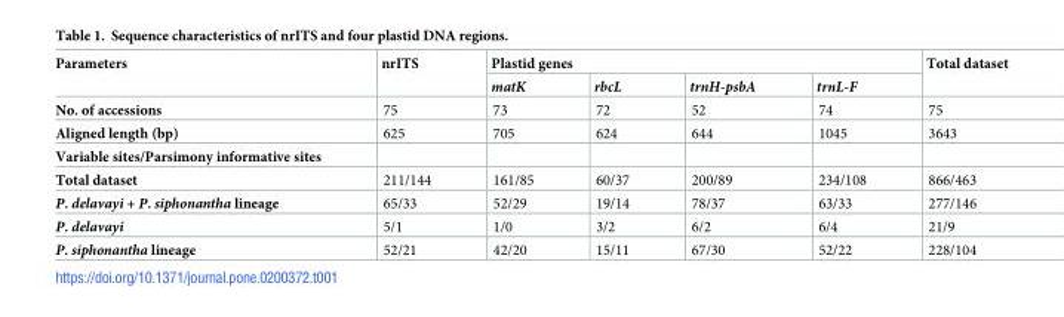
<table><thead><tr><td rowspan="2">Parameters</td><td rowspan="2">nrITS</td><td colspan="4">Plastid genes</td><td rowspan="2">Total dataset</td></tr><tr><td>matK</td><td>rbcL</td><td>trnH-psbA</td><td>trnL-F</td></tr></thead><tbody><tr><td>No. of accessions</td><td>75</td><td>73</td><td>72</td><td>52</td><td>74</td><td>75</td></tr><tr><td>Aligned length (bp)</td><td>625</td><td>705</td><td>624</td><td>644</td><td>1045</td><td>3643</td></tr><tr><td colspan="7">Variable sites/Parsimony informative sites</td></tr><tr><td>Total dataset</td><td>211/144</td><td>161/85</td><td>60/37</td><td>200/89</td><td>234/108</td><td>866/463</td></tr><tr><td>P. delavayi + P. siphonantha lineage</td><td>65/33</td><td>52/29</td><td>19/14</td><td>78/37</td><td>63/33</td><td>277/146</td></tr><tr><td>P. delavayi</td><td>5/1</td><td>1/0</td><td>3/2</td><td>6/2</td><td>6/4</td><td>21/9</td></tr><tr><td>P. siphonantha lineage</td><td>52/21</td><td>42/20</td><td>15/11</td><td>67/30</td><td>52/22</td><td>228/104</td></tr></tbody></table>